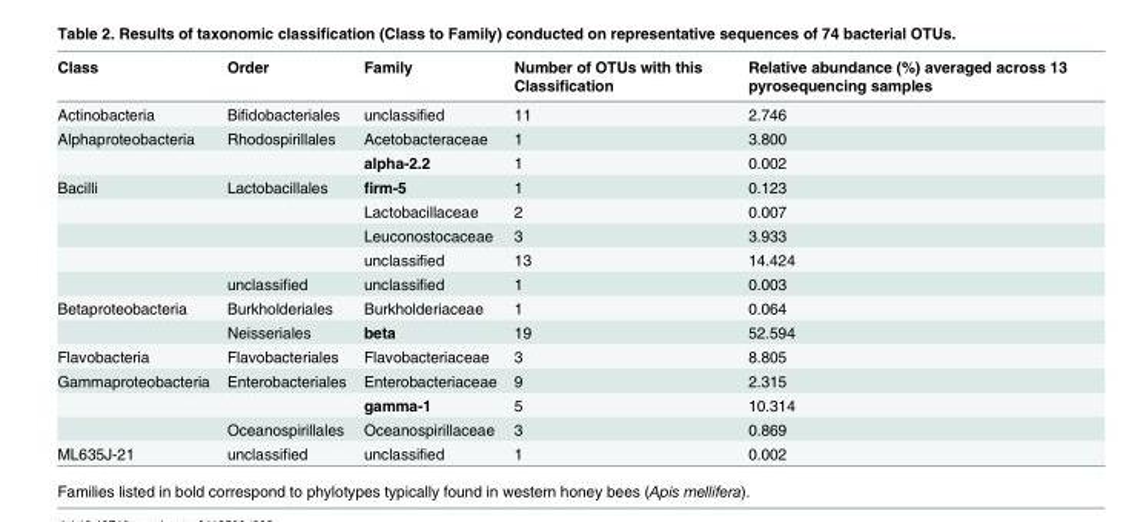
<table><thead><tr><td>Class</td><td>Order</td><td>Family</td><td>Number of OTUs with this Classification</td><td>Relative abundance (%) averaged across 13 pyrosequencing samples</td></tr></thead><tbody><tr><td>Actinobacteria</td><td>Bifidobacteriales</td><td>unclassified</td><td>11</td><td>2.746</td></tr><tr><td rowspan="2">Alphaproteobacteria</td><td>Rhodospirillales</td><td>Acetobacteraceae</td><td>1</td><td>3.800</td></tr><tr><td></td><td>alpha-2.2</td><td>1</td><td>0.002</td></tr><tr><td rowspan="5">Bacilli</td><td>Lactobacillales</td><td>firm-5</td><td>1</td><td>0.123</td></tr><tr><td></td><td>Lactobacillaceae</td><td>2</td><td>0.007</td></tr><tr><td></td><td>Leuconostocaceae</td><td>3</td><td>3.933</td></tr><tr><td></td><td>unclassified</td><td>13</td><td>14.424</td></tr><tr><td>unclassified</td><td>unclassified</td><td>1</td><td>0.003</td></tr><tr><td rowspan="2">Betaproteobacteria</td><td>Burkholderiales</td><td>Burkholderiaceae</td><td>1</td><td>0.064</td></tr><tr><td>Neisseriales</td><td>beta</td><td>19</td><td>52.594</td></tr><tr><td>Flavobacteria</td><td>Flavobacteriales</td><td>Flavobacteriaceae</td><td>3</td><td>8.805</td></tr><tr><td rowspan="3">Gammaproteobacteria</td><td>Enterobacteriales</td><td>Enterobacteriaceae</td><td>9</td><td>2.315</td></tr><tr><td></td><td>gamma-1</td><td>5</td><td>10.314</td></tr><tr><td>Oceanospirillales</td><td>Oceanospirillaceae</td><td>3</td><td>0.869</td></tr><tr><td>ML635J-21</td><td>unclassified</td><td>unclassified</td><td>1</td><td>0.002</td></tr></tbody></table>